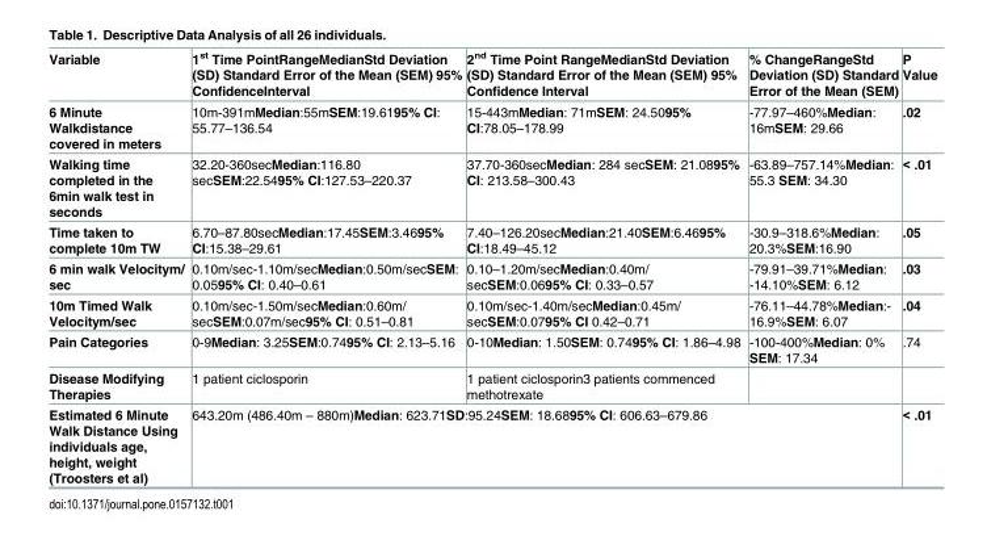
<table><thead><tr><td>Variable</td><td>1<sup>st</sup> Time PointRangeMedianStd Deviation (SD) Standard Error of the Mean (SEM) 95% ConfidenceInterval</td><td>2<sup>nd</sup> Time Point RangeMedianStd Deviation (SD) Standard Error of the Mean (SEM) 95% Confidence Interval</td><td>% ChangeRangeStd Deviation (SD) Standard Error of the Mean (SEM)</td><td>P Value</td></tr></thead><tbody><tr><td>6 Minute Walkdistance covered in meters</td><td>10m-391mMedian:55mSEM:19.6195% CI: 55.77–136.54</td><td>15-443mMedian: 71mSEM: 24.5095% CI:78.05–178.99</td><td>-77.97–460%Median: 16mSEM: 29.66</td><td>.02</td></tr><tr><td>Walking time completed in the 6min walk test in seconds</td><td>32.20-360secMedian:116.80 secSEM:22.5495% CI:127.53–220.37</td><td>37.70-360secMedian: 284 secSEM: 21.0895% CI: 213.58–300.43</td><td>-63.89–757.14%Median: 55.3 SEM: 34.30</td><td>&lt; .01</td></tr><tr><td>Time taken to complete 10m TW</td><td>6.70–87.80secMedian:17.45SEM:3.4695% CI:15.38–29.61</td><td>7.40–126.20secMedian:21.40SEM:6.4695% CI:18.49–45.12</td><td>-30.9–318.6%Median: 20.3%SEM:16.90</td><td>.05</td></tr><tr><td>6 min walk Velocitym/ sec</td><td>0.10m/sec-1.10m/secMedian:0.50m/secSEM: 0.0595% CI: 0.40–0.61</td><td>0.10–1.20m/secMedian:0.40m/ secSEM:0.0695% CI: 0.33–0.57</td><td>-79.91–39.71%Median: -14.10%SEM: 6.12</td><td>.03</td></tr><tr><td>10m Timed Walk Velocitym/sec</td><td>0.10m/sec-1.50m/secMedian:0.60m/ secSEM:0.07m/sec95% CI: 0.51–0.81</td><td>0.10m/sec-1.40m/secMedian:0.45m/ secSEM:0.0795% CI 0.42–0.71</td><td>-76.11–44.78%Median:- 16.9%SEM: 6.07</td><td>.04</td></tr><tr><td>Pain Categories</td><td>0-9Median: 3.25SEM:0.7495% CI: 2.13–5.16</td><td>0-10Median: 1.50SEM: 0.7495% CI: 1.86–4.98</td><td>-100-400%Median: 0% SEM: 17.34</td><td>.74</td></tr><tr><td>Disease Modifying Therapies</td><td>1 patient ciclosporin</td><td>1 patient ciclosporin3 patients commenced methotrexate</td><td></td><td></td></tr><tr><td>Estimated 6 Minute Walk Distance Using individuals age, height, weight (Troosters et al)</td><td colspan="3">643.20m (486.40m – 880m)Median: 623.71SD:95.24SEM: 18.6895% CI: 606.63–679.86</td><td>&lt; .01</td></tr></tbody></table>